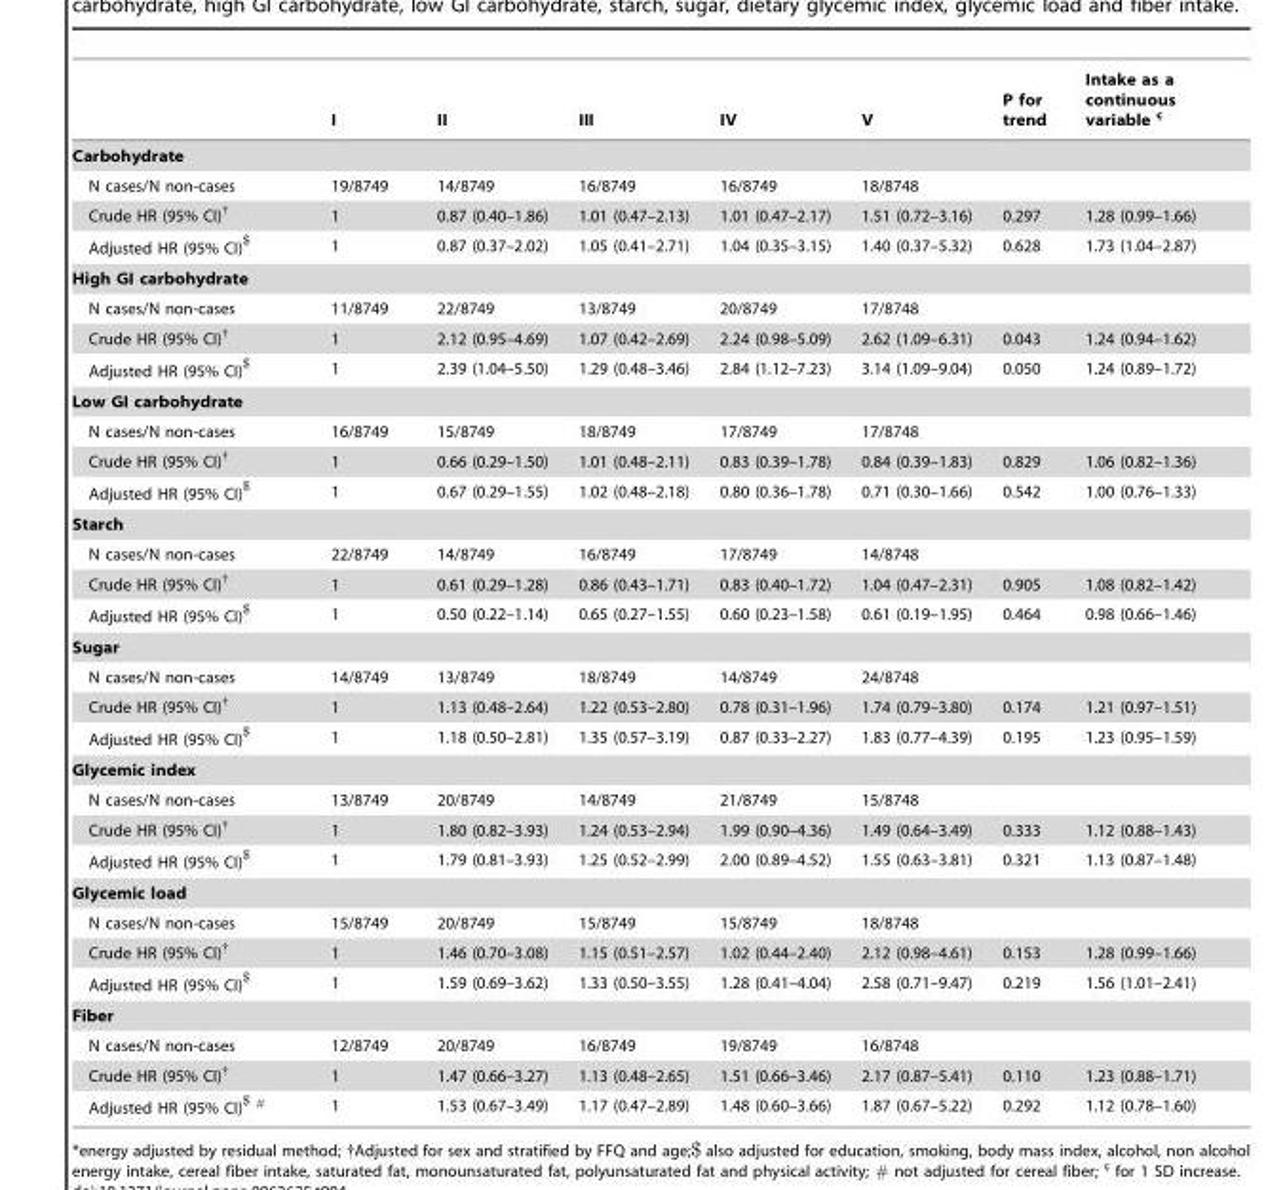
<table><thead><tr><td></td><td>I</td><td>II</td><td>III</td><td>IV</td><td>V</td><td>P for trend</td><td>Intake as a continuous variable c¸</td></tr></thead><tbody><tr><td colspan="8">Carbohydrate</td></tr><tr><td>N cases/N non-cases</td><td>19/8749</td><td>14/8749</td><td>16/8749</td><td>16/8749</td><td>18/8748</td><td></td><td></td></tr><tr><td>Crude HR (95% CI)<sup>†</sup></td><td>1</td><td>0.87 (0.40–1.86)</td><td>1.01 (0.47–2.13)</td><td>1.01 (0.47–2.17)</td><td>1.51 (0.72–3.16)</td><td>0.297</td><td>1.28 (0.99–1.66)</td></tr><tr><td>Adjusted HR (95% CI)<sup>$</sup></td><td>1</td><td>0.87 (0.37–2.02)</td><td>1.05 (0.41–2.71)</td><td>1.04 (0.35–3.15)</td><td>1.40 (0.37–5.32)</td><td>0.628</td><td>1.73 (1.04–2.87)</td></tr><tr><td colspan="8">High GI carbohydrate</td></tr><tr><td>N cases/N non-cases</td><td>11/8749</td><td>22/8749</td><td>13/8749</td><td>20/8749</td><td>17/8748</td><td></td><td></td></tr><tr><td>Crude HR (95% CI)<sup>†</sup></td><td>1</td><td>2.12 (0.95–4.69)</td><td>1.07 (0.42–2.69)</td><td>2.24 (0.98–5.09)</td><td>2.62 (1.09–6.31)</td><td>0.043</td><td>1.24 (0.94–1.62)</td></tr><tr><td>Adjusted HR (95% CI)<sup>$</sup></td><td>1</td><td>2.39 (1.04–5.50)</td><td>1.29 (0.48–3.46)</td><td>2.84 (1.12–7.23)</td><td>3.14 (1.09–9.04)</td><td>0.050</td><td>1.24 (0.89–1.72)</td></tr><tr><td colspan="8">Low GI carbohydrate</td></tr><tr><td>N cases/N non-cases</td><td>16/8749</td><td>15/8749</td><td>18/8749</td><td>17/8749</td><td>17/8748</td><td></td><td></td></tr><tr><td>Crude HR (95% CI)<sup>†</sup></td><td>1</td><td>0.66 (0.29–1.50)</td><td>1.01 (0.48–2.11)</td><td>0.83 (0.39–1.78)</td><td>0.84 (0.39–1.83)</td><td>0.829</td><td>1.06 (0.82–1.36)</td></tr><tr><td>Adjusted HR (95% CI)<sup>$</sup></td><td>1</td><td>0.67 (0.29–1.55)</td><td>1.02 (0.48–2.18)</td><td>0.80 (0.36–1.78)</td><td>0.71 (0.30–1.66)</td><td>0.542</td><td>1.00 (0.76–1.33)</td></tr><tr><td colspan="8">Starch</td></tr><tr><td>N cases/N non-cases</td><td>22/8749</td><td>14/8749</td><td>16/8749</td><td>17/8749</td><td>14/8748</td><td></td><td></td></tr><tr><td>Crude HR (95% CI)<sup>†</sup></td><td>1</td><td>0.61 (0.29–1.28)</td><td>0.86 (0.43–1.71)</td><td>0.83 (0.40–1.72)</td><td>1.04 (0.47–2.31)</td><td>0.905</td><td>1.08 (0.82–1.42)</td></tr><tr><td>Adjusted HR (95% CI)<sup>$</sup></td><td>1</td><td>0.50 (0.22–1.14)</td><td>0.65 (0.27–1.55)</td><td>0.60 (0.23–1.58)</td><td>0.61 (0.19–1.95)</td><td>0.464</td><td>0.98 (0.66–1.46)</td></tr><tr><td colspan="8">Sugar</td></tr><tr><td>N cases/N non-cases</td><td>14/8749</td><td>13/8749</td><td>18/8749</td><td>14/8749</td><td>24/8748</td><td></td><td></td></tr><tr><td>Crude HR (95% CI)<sup>†</sup></td><td>1</td><td>1.13 (0.48–2.64)</td><td>1.22 (0.53–2.80)</td><td>0.78 (0.31–1.96)</td><td>1.74 (0.79–3.80)</td><td>0.174</td><td>1.21 (0.97–1.51)</td></tr><tr><td>Adjusted HR (95% CI)<sup>$</sup></td><td>1</td><td>1.18 (0.50–2.81)</td><td>1.35 (0.57–3.19)</td><td>0.87 (0.33–2.27)</td><td>1.83 (0.77–4.39)</td><td>0.195</td><td>1.23 (0.95–1.59)</td></tr><tr><td colspan="8">Glycemic index</td></tr><tr><td>N cases/N non-cases</td><td>13/8749</td><td>20/8749</td><td>14/8749</td><td>21/8749</td><td>15/8748</td><td></td><td></td></tr><tr><td>Crude HR (95% CI)<sup>†</sup></td><td>1</td><td>1.80 (0.82–3.93)</td><td>1.24 (0.53–2.94)</td><td>1.99 (0.90–4.36)</td><td>1.49 (0.64–3.49)</td><td>0.333</td><td>1.12 (0.88–1.43)</td></tr><tr><td>Adjusted HR (95% CI)<sup>$</sup></td><td>1</td><td>1.79 (0.81–3.93)</td><td>1.25 (0.52–2.99)</td><td>2.00 (0.89–4.52)</td><td>1.55 (0.63–3.81)</td><td>0.321</td><td>1.13 (0.87–1.48)</td></tr><tr><td colspan="8">Glycemic load</td></tr><tr><td>N cases/N non-cases</td><td>15/8749</td><td>20/8749</td><td>15/8749</td><td>15/8749</td><td>18/8748</td><td></td><td></td></tr><tr><td>Crude HR (95% CI)<sup>†</sup></td><td>1</td><td>1.46 (0.70–3.08)</td><td>1.15 (0.51–2.57)</td><td>1.02 (0.44–2.40)</td><td>2.12 (0.98–4.61)</td><td>0.153</td><td>1.28 (0.99–1.66)</td></tr><tr><td>Adjusted HR (95% CI)<sup>$</sup></td><td>1</td><td>1.59 (0.69–3.62)</td><td>1.33 (0.50–3.55)</td><td>1.28 (0.41–4.04)</td><td>2.58 (0.71–9.47)</td><td>0.219</td><td>1.56 (1.01–2.41)</td></tr><tr><td colspan="8">Fiber</td></tr><tr><td>N cases/N non-cases</td><td>12/8749</td><td>20/8749</td><td>16/8749</td><td>19/8749</td><td>16/8748</td><td></td><td></td></tr><tr><td>Crude HR (95% CI)<sup>†</sup></td><td>1</td><td>1.47 (0.66–3.27)</td><td>1.13 (0.48–2.65)</td><td>1.51 (0.66–3.46)</td><td>2.17 (0.87–5.41)</td><td>0.110</td><td>1.23 (0.88–1.71)</td></tr><tr><td>Adjusted HR (95% CI)<sup>$ #</sup></td><td>1</td><td>1.53 (0.67–3.49)</td><td>1.17 (0.47–2.89)</td><td>1.48 (0.60–3.66)</td><td>1.87 (0.67–5.22)</td><td>0.292</td><td>1.12 (0.78–1.60)</td></tr></tbody></table>